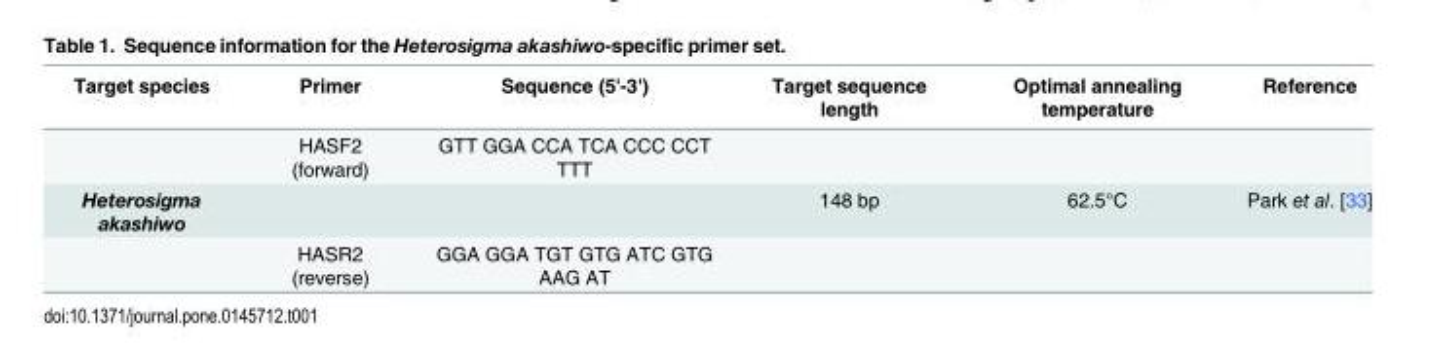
<table><thead><tr><td>Target species</td><td>Primer</td><td>Sequence (5&#x27;-3&#x27;)</td><td>Target sequence length</td><td>Optimal annealing temperature</td><td>Reference</td></tr></thead><tbody><tr><td></td><td>HASF2 (forward)</td><td>GTT GGA CCA TCA CCC CCT TTT</td><td></td><td></td><td></td></tr><tr><td rowspan="2">Heterosigma akashiwo</td><td></td><td></td><td>148 bp</td><td>62.5°C</td><td>Park et al. [33]</td></tr><tr><td>HASR2 (reverse)</td><td>GGA GGA TGT GTG ATC GTG AAG AT</td><td></td><td></td><td></td></tr></tbody></table>